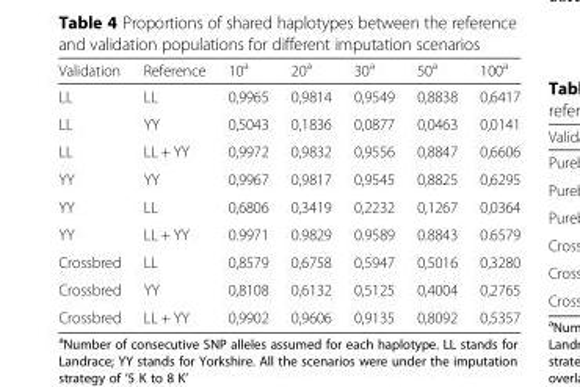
<table><thead><tr><td>Validation</td><td>Reference</td><td>10<sup>a</sup></td><td>20<sup>a</sup></td><td>30<sup>a</sup></td><td>50<sup>a</sup></td><td>100<sup>a</sup></td></tr></thead><tbody><tr><td>LL</td><td>LL</td><td>0,9965</td><td>0,9814</td><td>0,9549</td><td>0,8838</td><td>0,6417</td></tr><tr><td>LL</td><td>YY</td><td>0,5043</td><td>0,1836</td><td>0,0877</td><td>0,0463</td><td>0,0141</td></tr><tr><td>LL</td><td>LL + YY</td><td>0,9972</td><td>0,9832</td><td>0,9556</td><td>0,8847</td><td>0,6606</td></tr><tr><td>YY</td><td>YY</td><td>0,9967</td><td>0,9817</td><td>0,9545</td><td>0,8825</td><td>0,6295</td></tr><tr><td>YY</td><td>LL</td><td>0,6806</td><td>0,3419</td><td>0,2232</td><td>0,1267</td><td>0,0364</td></tr><tr><td>YY</td><td>LL + YY</td><td>0.9971</td><td>0.9829</td><td>0.9589</td><td>0.8843</td><td>0.6579</td></tr><tr><td>Crossbred</td><td>LL</td><td>0,8579</td><td>0,6758</td><td>0,5947</td><td>0,5016</td><td>0,3280</td></tr><tr><td>Crossbred</td><td>YY</td><td>0,8108</td><td>0,6132</td><td>0,5125</td><td>0,4004</td><td>0,2765</td></tr><tr><td>Crossbred</td><td>LL + YY</td><td>0,9902</td><td>0,9606</td><td>0,9135</td><td>0,8092</td><td>0,5357</td></tr></tbody></table>